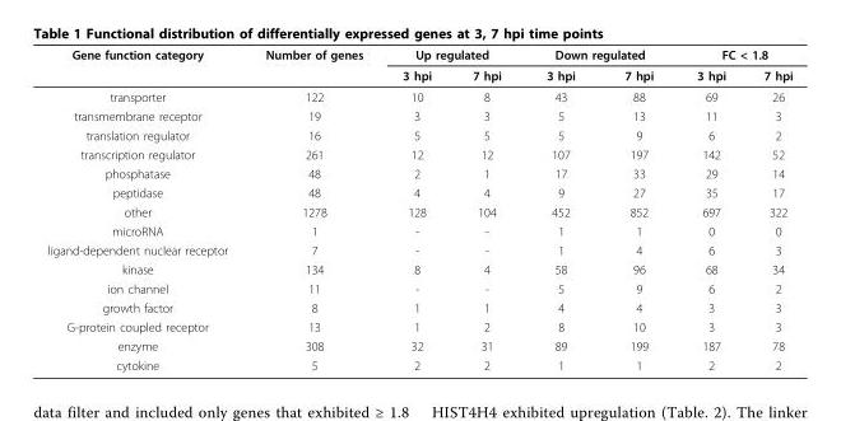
<table><thead><tr><td rowspan="2">Gene function category</td><td rowspan="2">Number of genes</td><td colspan="2">Up regulated</td><td colspan="2">Down regulated</td><td colspan="2">FC &lt; 1.8</td></tr><tr><td>3 hpi</td><td>7 hpi</td><td>3 hpi</td><td>7 hpi</td><td>3 hpi</td><td>7 hpi</td></tr></thead><tbody><tr><td>transporter</td><td>122</td><td>10</td><td>8</td><td>43</td><td>88</td><td>69</td><td>26</td></tr><tr><td>transmembrane receptor</td><td>19</td><td>3</td><td>3</td><td>5</td><td>13</td><td>11</td><td>3</td></tr><tr><td>translation regulator</td><td>16</td><td>5</td><td>5</td><td>5</td><td>9</td><td>6</td><td>2</td></tr><tr><td>transcription regulator</td><td>261</td><td>12</td><td>12</td><td>107</td><td>197</td><td>142</td><td>52</td></tr><tr><td>phosphatase</td><td>48</td><td>2</td><td>1</td><td>17</td><td>33</td><td>29</td><td>14</td></tr><tr><td>peptidase</td><td>48</td><td>4</td><td>4</td><td>9</td><td>27</td><td>35</td><td>17</td></tr><tr><td>other</td><td>1278</td><td>128</td><td>104</td><td>452</td><td>852</td><td>697</td><td>322</td></tr><tr><td>microRNA</td><td>1</td><td>-</td><td>-</td><td>1</td><td>1</td><td>0</td><td>0</td></tr><tr><td>ligand-dependent nuclear receptor</td><td>7</td><td>-</td><td>-</td><td>1</td><td>4</td><td>6</td><td>3</td></tr><tr><td>kinase</td><td>134</td><td>8</td><td>4</td><td>58</td><td>96</td><td>68</td><td>34</td></tr><tr><td>ion channel</td><td>11</td><td>-</td><td>-</td><td>5</td><td>9</td><td>6</td><td>2</td></tr><tr><td>growth factor</td><td>8</td><td>1</td><td>1</td><td>4</td><td>4</td><td>3</td><td>3</td></tr><tr><td>G-protein coupled receptor</td><td>13</td><td>1</td><td>2</td><td>8</td><td>10</td><td>3</td><td>3</td></tr><tr><td>enzyme</td><td>308</td><td>32</td><td>31</td><td>89</td><td>199</td><td>187</td><td>78</td></tr><tr><td>cytokine</td><td>5</td><td>2</td><td>2</td><td>1</td><td>1</td><td>2</td><td>2</td></tr></tbody></table>